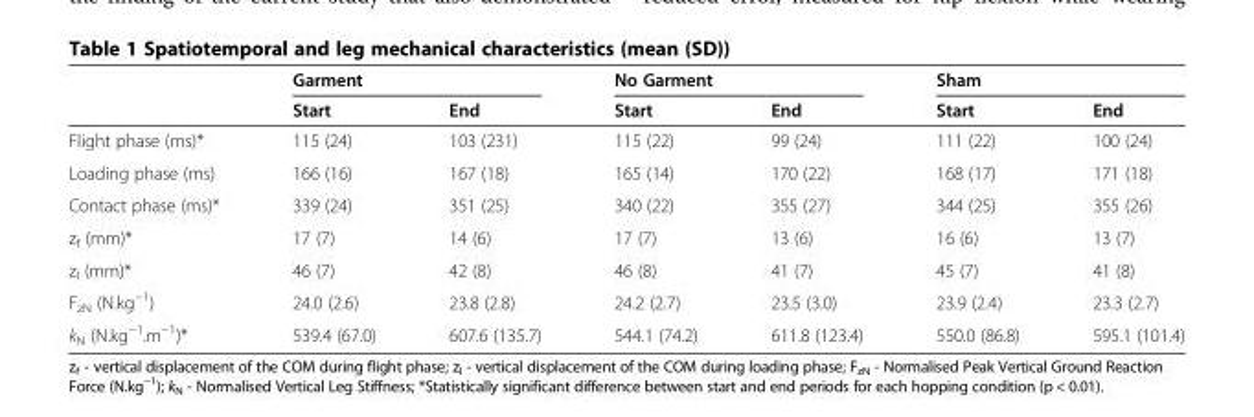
<table><thead><tr><td rowspan="2"></td><td colspan="2">Garment</td><td colspan="2">No Garment</td><td colspan="2">Sham</td></tr><tr><td>Start</td><td>End</td><td>Start</td><td>End</td><td>Start</td><td>End</td></tr></thead><tbody><tr><td>Flight phase (ms)*</td><td>115 (24)</td><td>103 (231)</td><td>115 (22)</td><td>99 (24)</td><td>111 (22)</td><td>100 (24)</td></tr><tr><td>Loading phase (ms)</td><td>166 (16)</td><td>167 (18)</td><td>165 (14)</td><td>170 (22)</td><td>168 (17)</td><td>171 (18)</td></tr><tr><td>Contact phase (ms)*</td><td>339 (24)</td><td>351 (25)</td><td>340 (22)</td><td>355 (27)</td><td>344 (25)</td><td>355 (26)</td></tr><tr><td>z<sub>f</sub> (mm)*</td><td>17 (7)</td><td>14 (6)</td><td>17 (7)</td><td>13 (6)</td><td>16 (6)</td><td>13 (7)</td></tr><tr><td>z<sub>l</sub> (mm)*</td><td>46 (7)</td><td>42 (8)</td><td>46 (8)</td><td>41 (7)</td><td>45 (7)</td><td>41 (8)</td></tr><tr><td>F<sub>zN</sub> (N.kg<sup>−1</sup>)</td><td>24.0 (2.6)</td><td>23.8 (2.8)</td><td>24.2 (2.7)</td><td>23.5 (3.0)</td><td>23.9 (2.4)</td><td>23.3 (2.7)</td></tr><tr><td>k<sub>N</sub> (N.kg<sup>−1</sup>.m<sup>−1</sup>)*</td><td>539.4 (67.0)</td><td>607.6 (135.7)</td><td>544.1 (74.2)</td><td>611.8 (123.4)</td><td>550.0 (86.8)</td><td>595.1 (101.4)</td></tr></tbody></table>